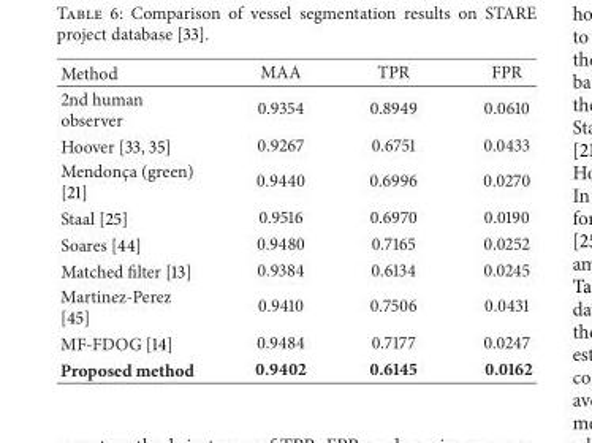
<table><thead><tr><td>Method</td><td>MAA</td><td>TPR</td><td>FPR</td></tr></thead><tbody><tr><td>2nd human observer</td><td>0.9354</td><td>0.8949</td><td>0.0610</td></tr><tr><td>Hoover [33, 35]</td><td>0.9267</td><td>0.6751</td><td>0.0433</td></tr><tr><td>Mendonc¸a (green) [21]</td><td>0.9440</td><td>0.6996</td><td>0.0270</td></tr><tr><td>Staal [25]</td><td>0.9516</td><td>0.6970</td><td>0.0190</td></tr><tr><td>Soares [44]</td><td>0.9480</td><td>0.7165</td><td>0.0252</td></tr><tr><td>Matched filter [13]</td><td>0.9384</td><td>0.6134</td><td>0.0245</td></tr><tr><td>Martinez-Perez [45]</td><td>0.9410</td><td>0.7506</td><td>0.0431</td></tr><tr><td>MF-FDOG [14]</td><td>0.9484</td><td>0.7177</td><td>0.0247</td></tr><tr><td>Proposed method</td><td>0.9402</td><td>0.6145</td><td>0.0162</td></tr></tbody></table>